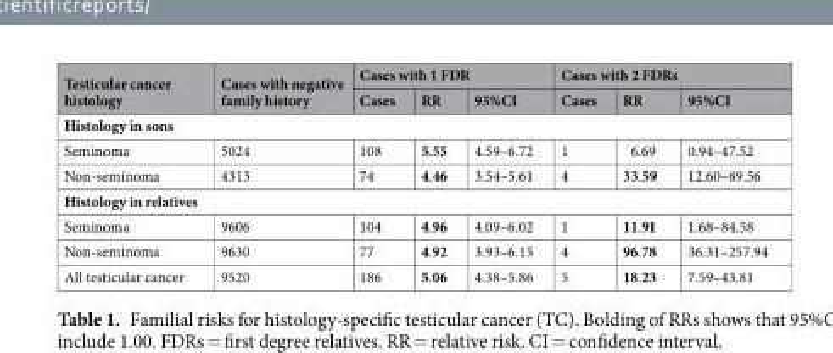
<table><thead><tr><td rowspan="2">Testicular cancer histology</td><td rowspan="2">Cases with negative family history</td><td colspan="3">Cases with 1 FDR</td><td colspan="3">Cases with 2 FDRs</td></tr><tr><td>Cases</td><td>RR</td><td>95%CI</td><td>Cases</td><td>RR</td><td>95%CI</td></tr></thead><tbody><tr><td colspan="8">Histology in sons</td></tr><tr><td>Seminoma</td><td>5024</td><td>108</td><td>5.55</td><td>4.59–6.72</td><td>1</td><td>6.69</td><td>0.94–47.52</td></tr><tr><td>Non-seminoma</td><td>4313</td><td>74</td><td>4.46</td><td>3.54–5.61</td><td>4</td><td>33.59</td><td>12.60–89.56</td></tr><tr><td colspan="8">Histology in relatives</td></tr><tr><td>Seminoma</td><td>9606</td><td>104</td><td>4.96</td><td>4.09–6.02</td><td>1</td><td>11.91</td><td>1.68–84.58</td></tr><tr><td>Non-seminoma</td><td>9630</td><td>77</td><td>4.92</td><td>3.93–6.15</td><td>4</td><td>96.78</td><td>36.31–257.94</td></tr><tr><td>All testicular cancer</td><td>9520</td><td>186</td><td>5.06</td><td>4.38–5.86</td><td>5</td><td>18.23</td><td>7.59–43.81</td></tr></tbody></table>